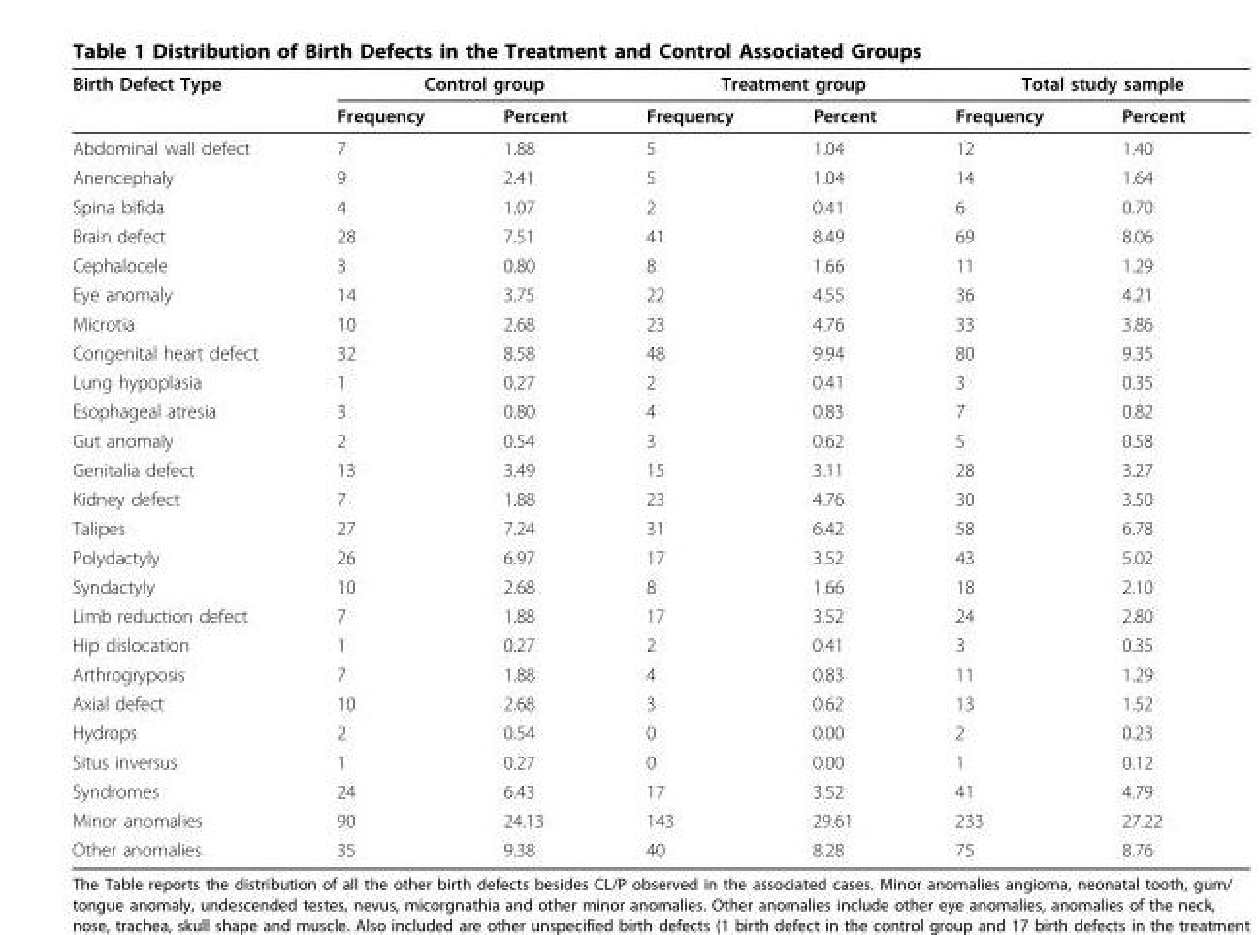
<table><thead><tr><td rowspan="2">Birth Defect Type</td><td colspan="2">Control group</td><td colspan="2">Treatment group</td><td colspan="2">Total study sample</td></tr><tr><td>Frequency</td><td>Percent</td><td>Frequency</td><td>Percent</td><td>Frequency</td><td>Percent</td></tr></thead><tbody><tr><td>Abdominal wall defect</td><td>7</td><td>1.88</td><td>5</td><td>1.04</td><td>12</td><td>1.40</td></tr><tr><td>Anencephaly</td><td>9</td><td>2.41</td><td>5</td><td>1.04</td><td>14</td><td>1.64</td></tr><tr><td>Spina bifida</td><td>4</td><td>1.07</td><td>2</td><td>0.41</td><td>6</td><td>0.70</td></tr><tr><td>Brain defect</td><td>28</td><td>7.51</td><td>41</td><td>8.49</td><td>69</td><td>8.06</td></tr><tr><td>Cephalocele</td><td>3</td><td>0.80</td><td>8</td><td>1.66</td><td>11</td><td>1.29</td></tr><tr><td>Eye anomaly</td><td>14</td><td>3.75</td><td>22</td><td>4.55</td><td>36</td><td>4.21</td></tr><tr><td>Microtia</td><td>10</td><td>2.68</td><td>23</td><td>4.76</td><td>33</td><td>3.86</td></tr><tr><td>Congenital heart defect</td><td>32</td><td>8.58</td><td>48</td><td>9.94</td><td>80</td><td>9.35</td></tr><tr><td>Lung hypoplasia</td><td>1</td><td>0.27</td><td>2</td><td>0.41</td><td>3</td><td>0.35</td></tr><tr><td>Esophageal atresia</td><td>3</td><td>0.80</td><td>4</td><td>0.83</td><td>7</td><td>0.82</td></tr><tr><td>Gut anomaly</td><td>2</td><td>0.54</td><td>3</td><td>0.62</td><td>5</td><td>0.58</td></tr><tr><td>Genitalia defect</td><td>13</td><td>3.49</td><td>15</td><td>3.11</td><td>28</td><td>3.27</td></tr><tr><td>Kidney defect</td><td>7</td><td>1.88</td><td>23</td><td>4.76</td><td>30</td><td>3.50</td></tr><tr><td>Talipes</td><td>27</td><td>7.24</td><td>31</td><td>6.42</td><td>58</td><td>6.78</td></tr><tr><td>Polydactyly</td><td>26</td><td>6.97</td><td>17</td><td>3.52</td><td>43</td><td>5.02</td></tr><tr><td>Syndactyly</td><td>10</td><td>2.68</td><td>8</td><td>1.66</td><td>18</td><td>2.10</td></tr><tr><td>Limb reduction defect</td><td>7</td><td>1.88</td><td>17</td><td>3.52</td><td>24</td><td>2.80</td></tr><tr><td>Hip dislocation</td><td>1</td><td>0.27</td><td>2</td><td>0.41</td><td>3</td><td>0.35</td></tr><tr><td>Arthrogryposis</td><td>7</td><td>1.88</td><td>4</td><td>0.83</td><td>11</td><td>1.29</td></tr><tr><td>Axial defect</td><td>10</td><td>2.68</td><td>3</td><td>0.62</td><td>13</td><td>1.52</td></tr><tr><td>Hydrops</td><td>2</td><td>0.54</td><td>0</td><td>0.00</td><td>2</td><td>0.23</td></tr><tr><td>Situs inversus</td><td>1</td><td>0.27</td><td>0</td><td>0.00</td><td>1</td><td>0.12</td></tr><tr><td>Syndromes</td><td>24</td><td>6.43</td><td>17</td><td>3.52</td><td>41</td><td>4.79</td></tr><tr><td>Minor anomalies</td><td>90</td><td>24.13</td><td>143</td><td>29.61</td><td>233</td><td>27.22</td></tr><tr><td>Other anomalies</td><td>35</td><td>9.38</td><td>40</td><td>8.28</td><td>75</td><td>8.76</td></tr></tbody></table>